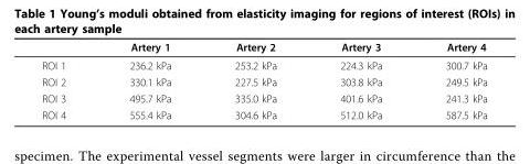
<table><thead><tr><td></td><td>Artery 1</td><td>Artery 2</td><td>Artery 3</td><td>Artery 4</td></tr></thead><tbody><tr><td>ROI 1</td><td>236.2 kPa</td><td>253.2 kPa</td><td>224.3 kPa</td><td>300.7 kPa</td></tr><tr><td>ROI 2</td><td>330.1 kPa</td><td>227.5 kPa</td><td>303.8 kPa</td><td>249.5 kPa</td></tr><tr><td>ROI 3</td><td>495.7 kPa</td><td>335.0 kPa</td><td>401.6 kPa</td><td>241.3 kPa</td></tr><tr><td>ROI 4</td><td>555.4 kPa</td><td>304.6 kPa</td><td>512.0 kPa</td><td>587.5 kPa</td></tr></tbody></table>